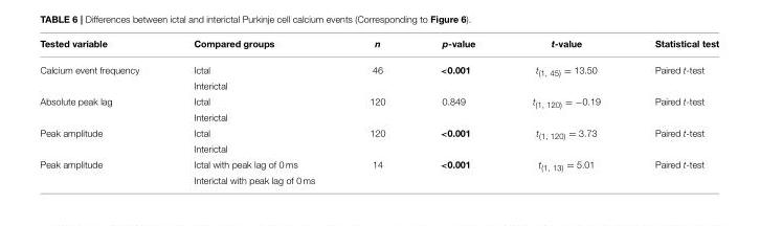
<table><thead><tr><td>Tested variable</td><td>Compared groups</td><td>n</td><td>p-value</td><td>t-value</td><td>Statistical test</td></tr></thead><tbody><tr><td rowspan="2">Calcium event frequency</td><td>Ictal</td><td>46</td><td>&lt;0.001</td><td>t<sub>(1, 45)</sub> = 13.50</td><td>Paired t-test</td></tr><tr><td>Interictal</td><td></td><td></td><td></td><td></td></tr><tr><td rowspan="2">Absolute peak lag</td><td>Ictal</td><td>120</td><td>0.849</td><td>t<sub>(1, 120)</sub> = −0.19</td><td>Paired t-test</td></tr><tr><td>Interictal</td><td></td><td></td><td></td><td></td></tr><tr><td rowspan="2">Peak amplitude</td><td>Ictal</td><td>120</td><td>&lt;0.001</td><td>t<sub>(1, 120)</sub> = 3.73</td><td>Paired t-test</td></tr><tr><td>Interictal</td><td></td><td></td><td></td><td></td></tr><tr><td rowspan="2">Peak amplitude</td><td>Ictal with peak lag of 0 ms</td><td>14</td><td>&lt;0.001</td><td>t<sub>(1, 13)</sub> = 5.01</td><td>Paired t-test</td></tr><tr><td>Interictal with peak lag of 0 ms</td><td></td><td></td><td></td><td></td></tr></tbody></table>